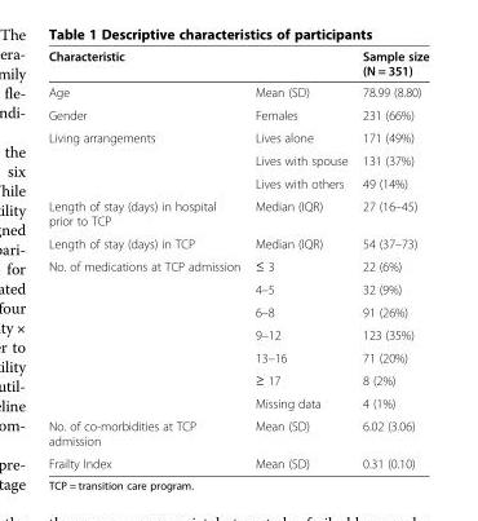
<table><thead><tr><td>Characteristic</td><td></td><td>Sample size (N = 351)</td></tr></thead><tbody><tr><td>Age</td><td>Mean (SD)</td><td>78.99 (8.80)</td></tr><tr><td>Gender</td><td>Females</td><td>231 (66%)</td></tr><tr><td rowspan="3">Living arrangements</td><td>Lives alone</td><td>171 (49%)</td></tr><tr><td>Lives with spouse</td><td>131 (37%)</td></tr><tr><td>Lives with others</td><td>49 (14%)</td></tr><tr><td>Length of stay (days) in hospital prior to TCP</td><td>Median (IQR)</td><td>27 (16–45)</td></tr><tr><td>Length of stay (days) in TCP</td><td>Median (IQR)</td><td>54 (37–73)</td></tr><tr><td rowspan="7">No. of medications at TCP admission</td><td>≤ 3</td><td>22 (6%)</td></tr><tr><td>4–5</td><td>32 (9%)</td></tr><tr><td>6–8</td><td>91 (26%)</td></tr><tr><td>9–12</td><td>123 (35%)</td></tr><tr><td>13–16</td><td>71 (20%)</td></tr><tr><td>≥ 17</td><td>8 (2%)</td></tr><tr><td>Missing data</td><td>4 (1%)</td></tr><tr><td>No. of co-morbidities at TCP admission</td><td>Mean (SD)</td><td>6.02 (3.06)</td></tr><tr><td>Frailty Index</td><td>Mean (SD)</td><td>0.31 (0.10)</td></tr></tbody></table>